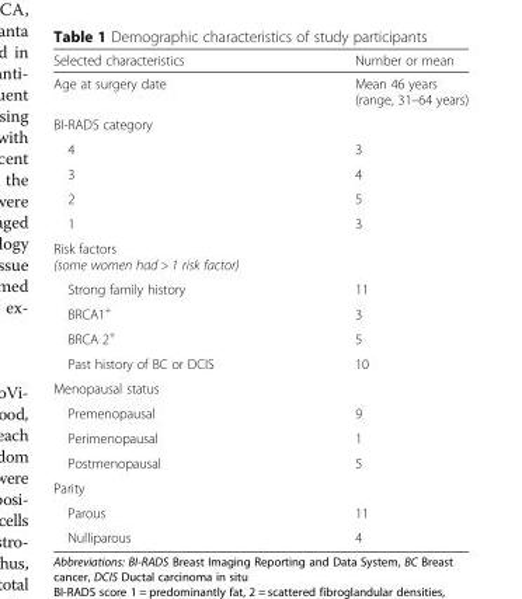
<table><thead><tr><td>Selected characteristics</td><td>Number or mean</td></tr></thead><tbody><tr><td>Age at surgery date</td><td>Mean 46 years (range, 31–64 years)</td></tr><tr><td colspan="2">BI-RADS category</td></tr><tr><td>4</td><td>3</td></tr><tr><td>3</td><td>4</td></tr><tr><td>2</td><td>5</td></tr><tr><td>1</td><td>3</td></tr><tr><td colspan="2">Risk factors (some women had &gt; 1 risk factor)</td></tr><tr><td>Strong family history</td><td>11</td></tr><tr><td>BRCA1<sup>+</sup></td><td>3</td></tr><tr><td>BRCA 2<sup>+</sup></td><td>5</td></tr><tr><td>Past history of BC or DCIS</td><td>10</td></tr><tr><td colspan="2">Menopausal status</td></tr><tr><td>Premenopausal</td><td>9</td></tr><tr><td>Perimenopausal</td><td>1</td></tr><tr><td>Postmenopausal</td><td>5</td></tr><tr><td colspan="2">Parity</td></tr><tr><td>Parous</td><td>11</td></tr><tr><td>Nulliparous</td><td>4</td></tr></tbody></table>